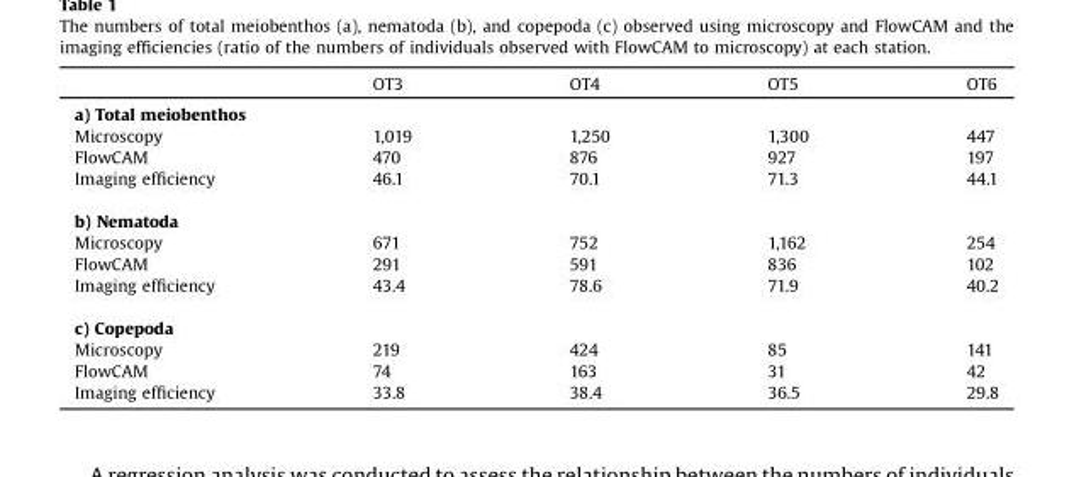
<table><thead><tr><td></td><td>OT3</td><td>OT4</td><td>OT5</td><td>OT6</td></tr></thead><tbody><tr><td colspan="5">a) Total meiobenthos</td></tr><tr><td>Microscopy</td><td>1,019</td><td>1,250</td><td>1,300</td><td>447</td></tr><tr><td>FlowCAM</td><td>470</td><td>876</td><td>927</td><td>197</td></tr><tr><td>Imaging efficiency</td><td>46.1</td><td>70.1</td><td>71.3</td><td>44.1</td></tr><tr><td colspan="5">b) Nematoda</td></tr><tr><td>Microscopy</td><td>671</td><td>752</td><td>1,162</td><td>254</td></tr><tr><td>FlowCAM</td><td>291</td><td>591</td><td>836</td><td>102</td></tr><tr><td>Imaging efficiency</td><td>43.4</td><td>78.6</td><td>71.9</td><td>40.2</td></tr><tr><td colspan="5">c) Copepoda</td></tr><tr><td>Microscopy</td><td>219</td><td>424</td><td>85</td><td>141</td></tr><tr><td>FlowCAM</td><td>74</td><td>163</td><td>31</td><td>42</td></tr><tr><td>Imaging efficiency</td><td>33.8</td><td>38.4</td><td>36.5</td><td>29.8</td></tr></tbody></table>